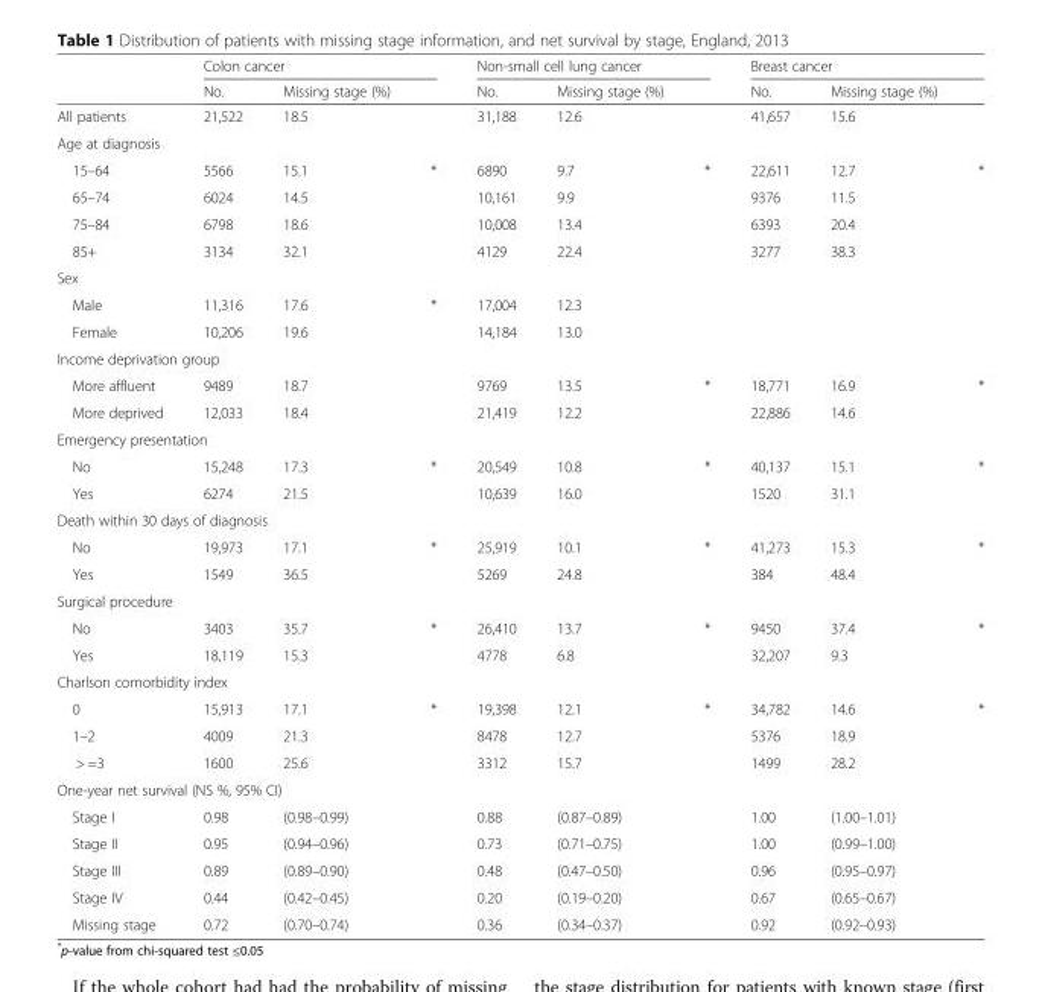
<table><thead><tr><td rowspan="2"></td><td colspan="3">Colon cancer</td><td colspan="3">Non-small cell lung cancer</td><td colspan="3">Breast cancer</td></tr><tr><td>No.</td><td>Missing stage (%)</td><td></td><td>No.</td><td>Missing stage (%)</td><td></td><td>No.</td><td>Missing stage (%)</td><td></td></tr></thead><tbody><tr><td>All patients</td><td>21,522</td><td>18.5</td><td></td><td>31,188</td><td>12.6</td><td></td><td>41,657</td><td>15.6</td><td></td></tr><tr><td colspan="10">Age at diagnosis</td></tr><tr><td>15–64</td><td>5566</td><td>15.1</td><td>*</td><td>6890</td><td>9.7</td><td>*</td><td>22,611</td><td>12.7</td><td>*</td></tr><tr><td>65–74</td><td>6024</td><td>14.5</td><td></td><td>10,161</td><td>9.9</td><td></td><td>9376</td><td>11.5</td><td></td></tr><tr><td>75–84</td><td>6798</td><td>18.6</td><td></td><td>10,008</td><td>13.4</td><td></td><td>6393</td><td>20.4</td><td></td></tr><tr><td>85+</td><td>3134</td><td>32.1</td><td></td><td>4129</td><td>22.4</td><td></td><td>3277</td><td>38.3</td><td></td></tr><tr><td colspan="10">Sex</td></tr><tr><td>Male</td><td>11,316</td><td>17.6</td><td>*</td><td>17,004</td><td>12.3</td><td></td><td></td><td></td><td></td></tr><tr><td>Female</td><td>10,206</td><td>19.6</td><td></td><td>14,184</td><td>13.0</td><td></td><td></td><td></td><td></td></tr><tr><td colspan="10">Income deprivation group</td></tr><tr><td>More affluent</td><td>9489</td><td>18.7</td><td></td><td>9769</td><td>13.5</td><td>*</td><td>18,771</td><td>16.9</td><td>*</td></tr><tr><td>More deprived</td><td>12,033</td><td>18.4</td><td></td><td>21,419</td><td>12.2</td><td></td><td>22,886</td><td>14.6</td><td></td></tr><tr><td colspan="10">Emergency presentation</td></tr><tr><td>No</td><td>15,248</td><td>17.3</td><td>*</td><td>20,549</td><td>10.8</td><td>*</td><td>40,137</td><td>15.1</td><td>*</td></tr><tr><td>Yes</td><td>6274</td><td>21.5</td><td></td><td>10,639</td><td>16.0</td><td></td><td>1520</td><td>31.1</td><td></td></tr><tr><td colspan="10">Death within 30 days of diagnosis</td></tr><tr><td>No</td><td>19,973</td><td>17.1</td><td>*</td><td>25,919</td><td>10.1</td><td>*</td><td>41,273</td><td>15.3</td><td>*</td></tr><tr><td>Yes</td><td>1549</td><td>36.5</td><td></td><td>5269</td><td>24.8</td><td></td><td>384</td><td>48.4</td><td></td></tr><tr><td colspan="10">Surgical procedure</td></tr><tr><td>No</td><td>3403</td><td>35.7</td><td>*</td><td>26,410</td><td>13.7</td><td>*</td><td>9450</td><td>37.4</td><td>*</td></tr><tr><td>Yes</td><td>18,119</td><td>15.3</td><td></td><td>4778</td><td>6.8</td><td></td><td>32,207</td><td>9.3</td><td></td></tr><tr><td colspan="10">Charlson comorbidity index</td></tr><tr><td>0</td><td>15,913</td><td>17.1</td><td>*</td><td>19,398</td><td>12.1</td><td>*</td><td>34,782</td><td>14.6</td><td>*</td></tr><tr><td>1–2</td><td>4009</td><td>21.3</td><td></td><td>8478</td><td>12.7</td><td></td><td>5376</td><td>18.9</td><td></td></tr><tr><td>&gt; =3</td><td>1600</td><td>25.6</td><td></td><td>3312</td><td>15.7</td><td></td><td>1499</td><td>28.2</td><td></td></tr><tr><td colspan="10">One-year net survival (NS %, 95% CI)</td></tr><tr><td>Stage I</td><td>0.98</td><td>(0.98–0.99)</td><td></td><td>0.88</td><td>(0.87–0.89)</td><td></td><td>1.00</td><td>(1.00–1.01)</td><td></td></tr><tr><td>Stage II</td><td>0.95</td><td>(0.94–0.96)</td><td></td><td>0.73</td><td>(0.71–0.75)</td><td></td><td>1.00</td><td>(0.99–1.00)</td><td></td></tr><tr><td>Stage III</td><td>0.89</td><td>(0.89–0.90)</td><td></td><td>0.48</td><td>(0.47–0.50)</td><td></td><td>0.96</td><td>(0.95–0.97)</td><td></td></tr><tr><td>Stage IV</td><td>0.44</td><td>(0.42–0.45)</td><td></td><td>0.20</td><td>(0.19–0.20)</td><td></td><td>0.67</td><td>(0.65–0.67)</td><td></td></tr><tr><td>Missing stage</td><td>0.72</td><td>(0.70–0.74)</td><td></td><td>0.36</td><td>(0.34–0.37)</td><td></td><td>0.92</td><td>(0.92–0.93)</td><td></td></tr></tbody></table>